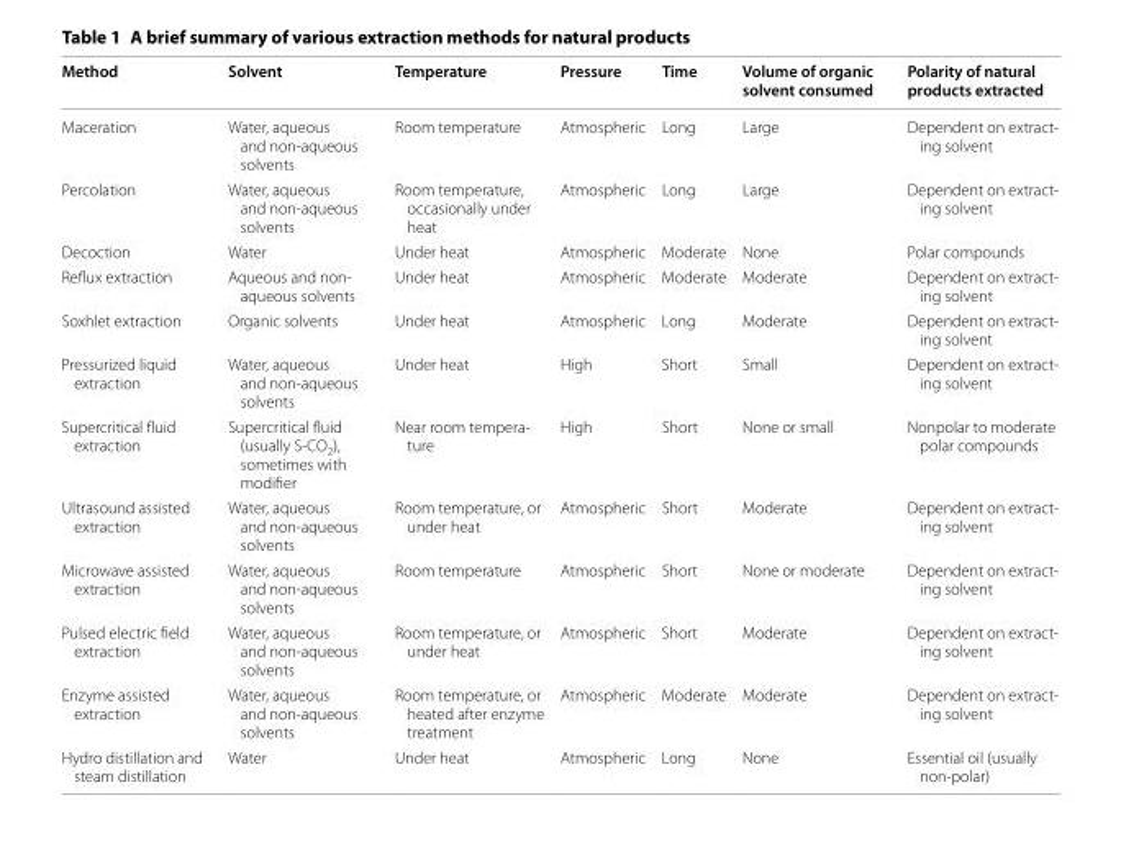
<table><thead><tr><td>Method</td><td>Solvent</td><td>Temperature</td><td>Pressure</td><td>Time</td><td>Volume of organic solvent consumed</td><td>Polarity of natural products extracted</td></tr></thead><tbody><tr><td>Maceration</td><td>Water, aqueous and non‑aqueous solvents</td><td>Room temperature</td><td>Atmospheric</td><td>Long</td><td>Large</td><td>Dependent on extract‑ ing solvent</td></tr><tr><td>Percolation</td><td>Water, aqueous and non‑aqueous solvents</td><td>Room temperature, occasionally under heat</td><td>Atmospheric</td><td>Long</td><td>Large</td><td>Dependent on extract‑ ing solvent</td></tr><tr><td>Decoction</td><td>Water</td><td>Under heat</td><td>Atmospheric</td><td>Moderate</td><td>None</td><td>Polar compounds</td></tr><tr><td>Reflux extraction</td><td>Aqueous and non‑ aqueous solvents</td><td>Under heat</td><td>Atmospheric</td><td>Moderate</td><td>Moderate</td><td>Dependent on extract‑ ing solvent</td></tr><tr><td>Soxhlet extraction</td><td>Organic solvents</td><td>Under heat</td><td>Atmospheric</td><td>Long</td><td>Moderate</td><td>Dependent on extract‑ ing solvent</td></tr><tr><td>Pressurized liquid extraction</td><td>Water, aqueous and non‑aqueous solvents</td><td>Under heat</td><td>High</td><td>Short</td><td>Small</td><td>Dependent on extract‑ ing solvent</td></tr><tr><td>Supercritical fluid extraction</td><td>Supercritical fluid (usually S‑CO<sub>2</sub>), sometimes with modifier</td><td>Near room tempera‑ ture</td><td>High</td><td>Short</td><td>None or small</td><td>Nonpolar to moderate polar compounds</td></tr><tr><td>Ultrasound assisted extraction</td><td>Water, aqueous and non‑aqueous solvents</td><td>Room temperature, or under heat</td><td>Atmospheric</td><td>Short</td><td>Moderate</td><td>Dependent on extract‑ ing solvent</td></tr><tr><td>Microwave assisted extraction</td><td>Water, aqueous and non‑aqueous solvents</td><td>Room temperature</td><td>Atmospheric</td><td>Short</td><td>None or moderate</td><td>Dependent on extract‑ ing solvent</td></tr><tr><td>Pulsed electric field extraction</td><td>Water, aqueous and non‑aqueous solvents</td><td>Room temperature, or under heat</td><td>Atmospheric</td><td>Short</td><td>Moderate</td><td>Dependent on extract‑ ing solvent</td></tr><tr><td>Enzyme assisted extraction</td><td>Water, aqueous and non‑aqueous solvents</td><td>Room temperature, or heated after enzyme treatment</td><td>Atmospheric</td><td>Moderate</td><td>Moderate</td><td>Dependent on extract‑ ing solvent</td></tr><tr><td>Hydro distillation and steam distillation</td><td>Water</td><td>Under heat</td><td>Atmospheric</td><td>Long</td><td>None</td><td>Essential oil (usually non‑polar)</td></tr></tbody></table>